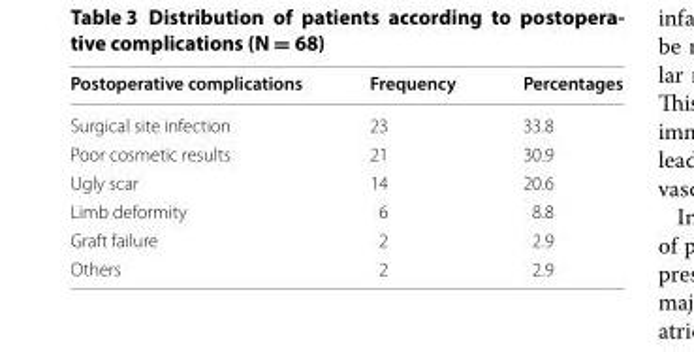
<table><thead><tr><td>Postoperative complications</td><td>Frequency</td><td>Percentages</td></tr></thead><tbody><tr><td>Surgical site infection</td><td>23</td><td>33.8</td></tr><tr><td>Poor cosmetic results</td><td>21</td><td>30.9</td></tr><tr><td>Ugly scar</td><td>14</td><td>20.6</td></tr><tr><td>Limb deformity</td><td>6</td><td>8.8</td></tr><tr><td>Graft failure</td><td>2</td><td>2.9</td></tr><tr><td>Others</td><td>2</td><td>2.9</td></tr></tbody></table>